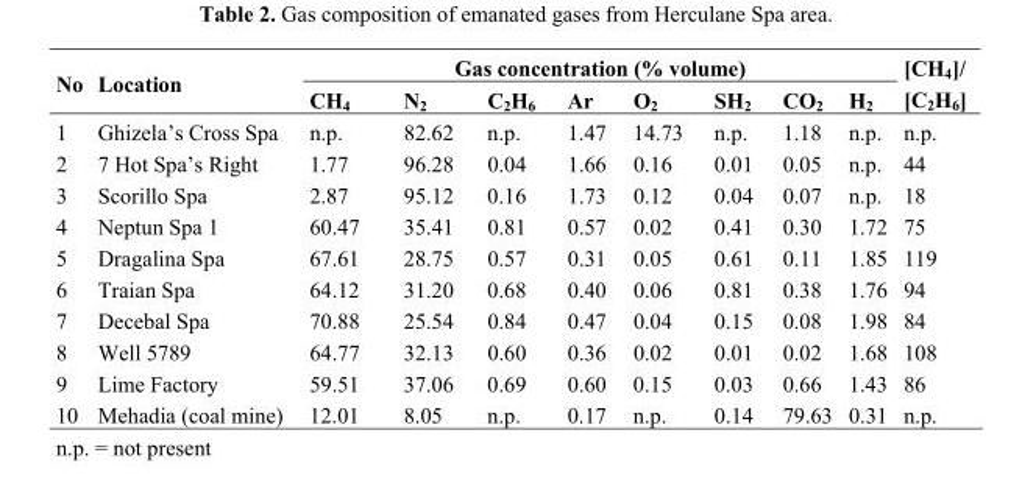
<table><thead><tr><td rowspan="2">No</td><td rowspan="2">Location</td><td colspan="8">Gas concentration (% volume)</td><td rowspan="2">[CH<sub>4</sub>]/ [C<sub>2</sub>H<sub>6</sub>]</td></tr><tr><td>CH<sub>4</sub></td><td>N<sub>2</sub></td><td>C<sub>2</sub>H<sub>6</sub></td><td>Ar</td><td>O<sub>2</sub></td><td>SH<sub>2</sub></td><td>CO<sub>2</sub></td><td>H<sub>2</sub></td></tr></thead><tbody><tr><td>1</td><td>Ghizela’s Cross Spa</td><td>n.p.</td><td>82.62</td><td>n.p.</td><td>1.47</td><td>14.73</td><td>n.p.</td><td>1.18</td><td>n.p.</td><td>n.p.</td></tr><tr><td>2</td><td>7 Hot Spa’s Right</td><td>1.77</td><td>96.28</td><td>0.04</td><td>1.66</td><td>0.16</td><td>0.01</td><td>0.05</td><td>n.p.</td><td>44</td></tr><tr><td>3</td><td>Scorillo Spa</td><td>2.87</td><td>95.12</td><td>0.16</td><td>1.73</td><td>0.12</td><td>0.04</td><td>0.07</td><td>n.p.</td><td>18</td></tr><tr><td>4</td><td>Neptun Spa 1</td><td>60.47</td><td>35.41</td><td>0.81</td><td>0.57</td><td>0.02</td><td>0.41</td><td>0.30</td><td>1.72</td><td>75</td></tr><tr><td>5</td><td>Dragalina Spa</td><td>67.61</td><td>28.75</td><td>0.57</td><td>0.31</td><td>0.05</td><td>0.61</td><td>0.11</td><td>1.85</td><td>119</td></tr><tr><td>6</td><td>Traian Spa</td><td>64.12</td><td>31.20</td><td>0.68</td><td>0.40</td><td>0.06</td><td>0.81</td><td>0.38</td><td>1.76</td><td>94</td></tr><tr><td>7</td><td>Decebal Spa</td><td>70.88</td><td>25.54</td><td>0.84</td><td>0.47</td><td>0.04</td><td>0.15</td><td>0.08</td><td>1.98</td><td>84</td></tr><tr><td>8</td><td>Well 5789</td><td>64.77</td><td>32.13</td><td>0.60</td><td>0.36</td><td>0.02</td><td>0.01</td><td>0.02</td><td>1.68</td><td>108</td></tr><tr><td>9</td><td>Lime Factory</td><td>59.51</td><td>37.06</td><td>0.69</td><td>0.60</td><td>0.15</td><td>0.03</td><td>0.66</td><td>1.43</td><td>86</td></tr><tr><td>10</td><td>Mehadia (coal mine)</td><td>12.01</td><td>8.05</td><td>n.p.</td><td>0.17</td><td>n.p.</td><td>0.14</td><td>79.63</td><td>0.31</td><td>n.p.</td></tr></tbody></table>